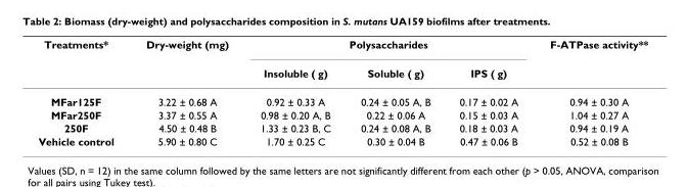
<table><thead><tr><td rowspan="2">Treatments*</td><td rowspan="2">Dry-weight (mg)</td><td colspan="3">Polysaccharides</td><td rowspan="2">F-ATPase activity**</td></tr><tr><td>Insoluble ( g)</td><td>Soluble ( g)</td><td>IPS ( g)</td></tr></thead><tbody><tr><td>MFar125F</td><td>3.22 ± 0.68 A</td><td>0.92 ± 0.33 A</td><td>0.24 ± 0.05 A, B</td><td>0.17 ± 0.02 A</td><td>0.94 ± 0.30 A</td></tr><tr><td>MFar250F</td><td>3.37 ± 0.55 A</td><td>0.98 ± 0.20 A, B</td><td>0.22 ± 0.06 A</td><td>0.15 ± 0.03 A</td><td>1.04 ± 0.27 A</td></tr><tr><td>250F</td><td>4.50 ± 0.48 B</td><td>1.33 ± 0.23 B, C</td><td>0.24 ± 0.08 A, B</td><td>0.18 ± 0.03 A</td><td>0.94 ± 0.19 A</td></tr><tr><td>Vehicle control</td><td>5.90 ± 0.80 C</td><td>1.70 ± 0.25 C</td><td>0.30 ± 0.04 B</td><td>0.47 ± 0.06 B</td><td>0.52 ± 0.08 B</td></tr></tbody></table>